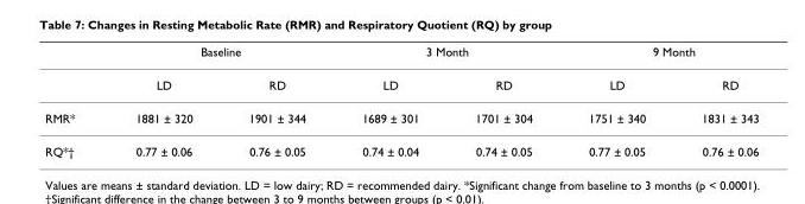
<table><thead><tr><td rowspan="2"></td><td colspan="2">Baseline</td><td colspan="2">3 Month</td><td colspan="2">9 Month</td></tr><tr><td>LD</td><td>RD</td><td>LD</td><td>RD</td><td>LD</td><td>RD</td></tr></thead><tbody><tr><td>RMR*</td><td>1881 ± 320</td><td>1901 ± 344</td><td>1689 ± 301</td><td>1701 ± 304</td><td>1751 ± 340</td><td>1831 ± 343</td></tr><tr><td>RQ*†</td><td>0.77 ± 0.06</td><td>0.76 ± 0.05</td><td>0.74 ± 0.04</td><td>0.74 ± 0.05</td><td>0.77 ± 0.05</td><td>0.76 ± 0.06</td></tr></tbody></table>